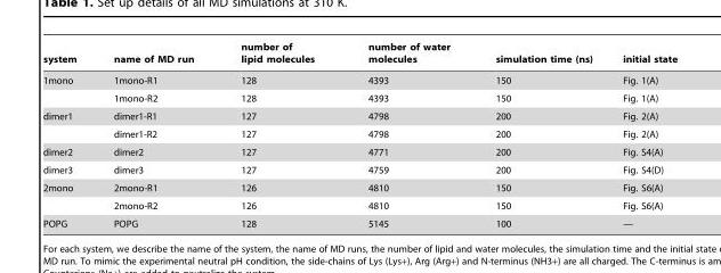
<table><thead><tr><td>system</td><td>name of MD run</td><td>number of lipid molecules</td><td>number of water molecules</td><td>simulation time (ns)</td><td>initial state</td></tr></thead><tbody><tr><td rowspan="2">1mono</td><td>1mono-R1</td><td>128</td><td>4393</td><td>150</td><td>Fig. 1(A)</td></tr><tr><td>1mono-R2</td><td>128</td><td>4393</td><td>150</td><td>Fig. 1(A)</td></tr><tr><td rowspan="2">dimer1</td><td>dimer1-R1</td><td>127</td><td>4798</td><td>200</td><td>Fig. 2(A)</td></tr><tr><td>dimer1-R2</td><td>127</td><td>4798</td><td>200</td><td>Fig. 2(A)</td></tr><tr><td>dimer2</td><td>dimer2</td><td>127</td><td>4771</td><td>200</td><td>Fig. S4(A)</td></tr><tr><td>dimer3</td><td>dimer3</td><td>127</td><td>4759</td><td>200</td><td>Fig. S4(D)</td></tr><tr><td rowspan="2">2mono</td><td>2mono-R1</td><td>126</td><td>4810</td><td>150</td><td>Fig. S6(A)</td></tr><tr><td>2mono-R2</td><td>126</td><td>4810</td><td>150</td><td>Fig. S6(A)</td></tr><tr><td>POPG</td><td>POPG</td><td>128</td><td>5145</td><td>100</td><td>—</td></tr></tbody></table>